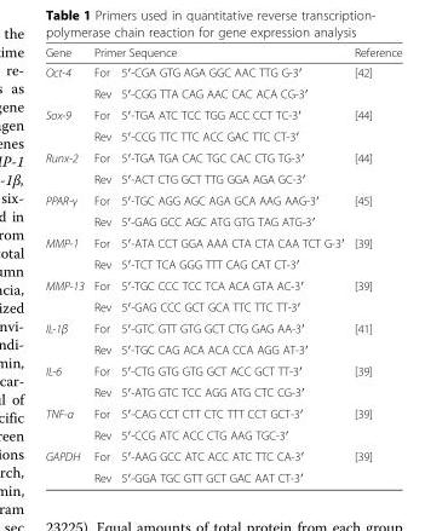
<table><thead><tr><td rowspan="2">Gene Oct-4</td><td colspan="2">Primer Sequence</td><td rowspan="2">Reference [42]</td></tr><tr><td>For</td><td>5′-CGA GTG AGA GGC AAC TTG G-3′</td></tr></thead><tbody><tr><td></td><td>Rev</td><td>5′-CGG TTA CAG AAC CAC ACA CG-3′</td><td></td></tr><tr><td rowspan="2">Sox-9</td><td>For</td><td>5′-TGA ATC TCC TGG ACC CCT TC-3′</td><td>[44]</td></tr><tr><td>Rev</td><td>5′-CCG TTC TTC ACC GAC TTC CT-3′</td><td></td></tr><tr><td rowspan="2">Runx-2</td><td>For</td><td>5′-TGA TGA CAC TGC CAC CTG TG-3′</td><td>[44]</td></tr><tr><td>Rev</td><td>5′-ACT CTG GCT TTG GGA AGA GC-3′</td><td></td></tr><tr><td rowspan="2">PPAR-γ</td><td>For</td><td>5′-TGC AGG AGC AGA GCA AAG AAG-3′</td><td>[45]</td></tr><tr><td>Rev</td><td>5′-GAG GCC AGC ATG GTG TAG ATG-3′</td><td></td></tr><tr><td rowspan="2">MMP-1</td><td>For</td><td>5′-ATA CCT GGA AAA CTA CTA CAA TCT G-3′</td><td>[39]</td></tr><tr><td>Rev</td><td>5′-TCT TCA GGG TTT CAG CAT CT-3′</td><td></td></tr><tr><td rowspan="2">MMP-13</td><td>For</td><td>5′-TGC CCC TCC TCA ACA GTA AC-3′</td><td>[39]</td></tr><tr><td>Rev</td><td>5′-GAG CCC GCT GCA TTC TTC TT-3′</td><td></td></tr><tr><td rowspan="2">IL-1β</td><td>For</td><td>5′-GTC GTT GTG GCT CTG GAG AA-3′</td><td>[41]</td></tr><tr><td>Rev</td><td>5′-TGC CAG ACA ACA CCA AGG AT-3′</td><td></td></tr><tr><td rowspan="2">IL-6</td><td>For</td><td>5′-CTG GTG GTG GCT ACC GCT TT-3′</td><td>[39]</td></tr><tr><td>Rev</td><td>5′-ATG GTC TCC AGG ATG CTC CG-3′</td><td></td></tr><tr><td rowspan="2">TNF-α</td><td>For</td><td>5′-CAG CCT CTT CTC TTT CCT GCT-3′</td><td>[39]</td></tr><tr><td>Rev</td><td>5′-CCG ATC ACC CTG AAG TGC-3′</td><td></td></tr><tr><td rowspan="2">GAPDH</td><td>For</td><td>5′-AAG GCC ATC ACC ATC TTC CA-3′</td><td>[39]</td></tr><tr><td>Rev</td><td>5′-GGA TGC GTT GCT GAC AAT CT-3′</td><td></td></tr></tbody></table>